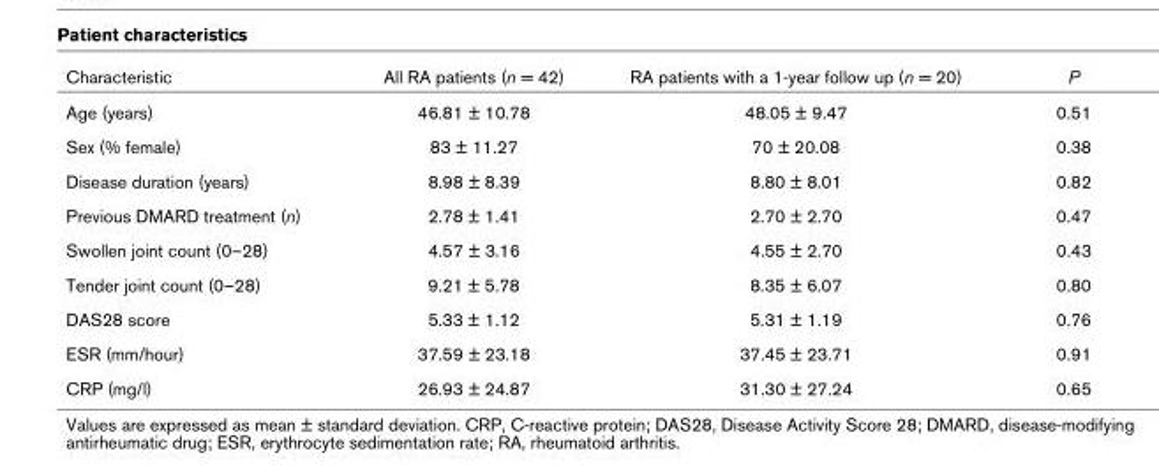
<table><thead><tr><td>Characteristic</td><td>All RA patients (n = 42)</td><td>RA patients with a 1-year follow up (n = 20)</td><td>P</td></tr></thead><tbody><tr><td>Age (years)</td><td>46.81 ± 10.78</td><td>48.05 ± 9.47</td><td>0.51</td></tr><tr><td>Sex (% female)</td><td>83 ± 11.27</td><td>70 ± 20.08</td><td>0.38</td></tr><tr><td>Disease duration (years)</td><td>8.98 ± 8.39</td><td>8.80 ± 8.01</td><td>0.82</td></tr><tr><td>Previous DMARD treatment (n)</td><td>2.78 ± 1.41</td><td>2.70 ± 2.70</td><td>0.47</td></tr><tr><td>Swollen joint count (0–28)</td><td>4.57 ± 3.16</td><td>4.55 ± 2.70</td><td>0.43</td></tr><tr><td>Tender joint count (0–28)</td><td>9.21 ± 5.78</td><td>8.35 ± 6.07</td><td>0.80</td></tr><tr><td>DAS28 score</td><td>5.33 ± 1.12</td><td>5.31 ± 1.19</td><td>0.76</td></tr><tr><td>ESR (mm/hour)</td><td>37.59 ± 23.18</td><td>37.45 ± 23.71</td><td>0.91</td></tr><tr><td>CRP (mg/l)</td><td>26.93 ± 24.87</td><td>31.30 ± 27.24</td><td>0.65</td></tr></tbody></table>